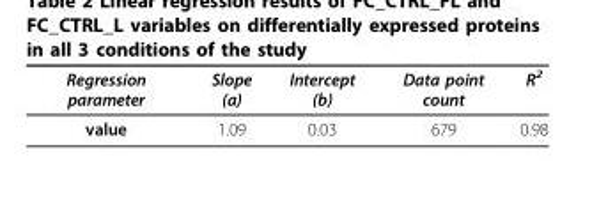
<table><thead><tr><td>Regression parameter</td><td>Slope (a)</td><td>Intercept (b)</td><td>Data point count</td><td>R<sup>2</sup></td></tr></thead><tbody><tr><td>value</td><td>1.09</td><td>0.03</td><td>679</td><td>0.98</td></tr></tbody></table>